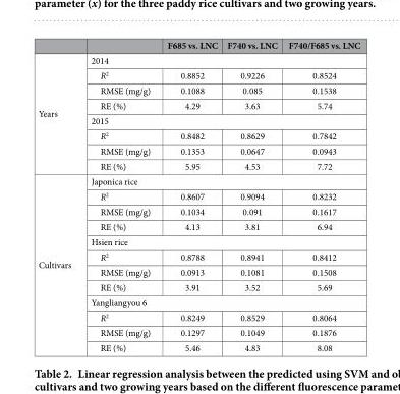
<table><thead><tr><td></td><td></td><td>F685 vs. LNC</td><td>F740 vs. LNC</td><td>F740/F685 vs. LNC</td></tr></thead><tbody><tr><td rowspan="8">Years</td><td colspan="4">2014</td></tr><tr><td>R<sup>2</sup></td><td>0.8852</td><td>0.9226</td><td>0.8524</td></tr><tr><td>RMSE (mg/g)</td><td>0.1088</td><td>0.085</td><td>0.1538</td></tr><tr><td>RE (%)</td><td>4.29</td><td>3.63</td><td>5.74</td></tr><tr><td colspan="4">2015</td></tr><tr><td>R<sup>2</sup></td><td>0.8482</td><td>0.8629</td><td>0.7842</td></tr><tr><td>RMSE (mg/g)</td><td>0.1353</td><td>0.0647</td><td>0.0943</td></tr><tr><td>RE (%)</td><td>5.95</td><td>4.53</td><td>7.72</td></tr><tr><td rowspan="12">Cultivars</td><td colspan="4">Japonica rice</td></tr><tr><td>R<sup>2</sup></td><td>0.8607</td><td>0.9094</td><td>0.8232</td></tr><tr><td>RMSE (mg/g)</td><td>0.1034</td><td>0.091</td><td>0.1617</td></tr><tr><td>RE (%)</td><td>4.13</td><td>3.81</td><td>6.94</td></tr><tr><td colspan="4">Hsien rice</td></tr><tr><td>R<sup>2</sup></td><td>0.8788</td><td>0.8941</td><td>0.8412</td></tr><tr><td>RMSE (mg/g)</td><td>0.0913</td><td>0.1081</td><td>0.1508</td></tr><tr><td>RE (%)</td><td>3.91</td><td>3.52</td><td>5.69</td></tr><tr><td colspan="4">Yangliangyou 6</td></tr><tr><td>R<sup>2</sup></td><td>0.8249</td><td>0.8529</td><td>0.8064</td></tr><tr><td>RMSE (mg/g)</td><td>0.1297</td><td>0.1049</td><td>0.1876</td></tr><tr><td>RE (%)</td><td>5.46</td><td>4.83</td><td>8.08</td></tr></tbody></table>